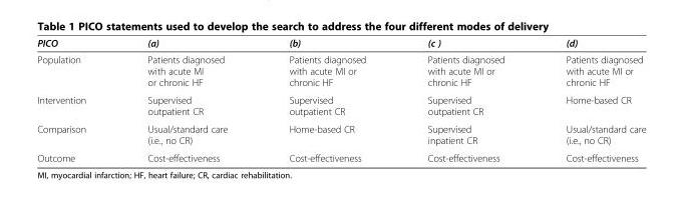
<table><thead><tr><td>PICO</td><td>(a)</td><td>(b)</td><td>(c )</td><td>(d)</td></tr></thead><tbody><tr><td>Population</td><td>Patients diagnosed with acute MI or chronic HF</td><td>Patients diagnosed with acute MI or chronic HF</td><td>Patients diagnosed with acute MI or chronic HF</td><td>Patients diagnosed with acute MI or chronic HF</td></tr><tr><td>Intervention</td><td>Supervised outpatient CR</td><td>Supervised outpatient CR</td><td>Supervised outpatient CR</td><td>Home-based CR</td></tr><tr><td>Comparison</td><td>Usual/standard care (i.e., no CR)</td><td>Home-based CR</td><td>Supervised inpatient CR</td><td>Usual/standard care (i.e., no CR)</td></tr><tr><td>Outcome</td><td>Cost-effectiveness</td><td>Cost-effectiveness</td><td>Cost-effectiveness</td><td>Cost-effectiveness</td></tr></tbody></table>